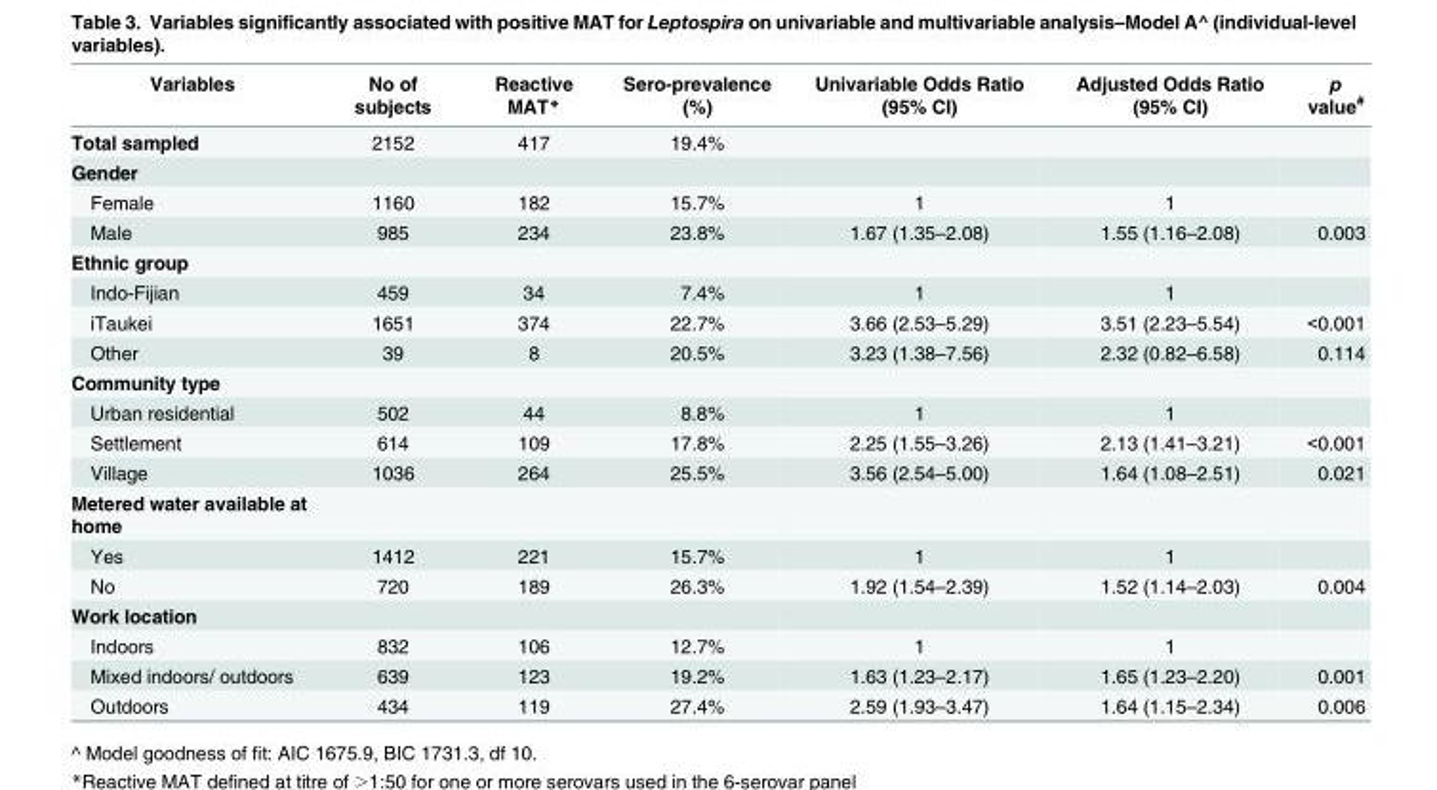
<table><thead><tr><td>Variables</td><td>No of subjects</td><td>Reactive MAT*</td><td>Sero-prevalence (%)</td><td>Univariable Odds Ratio (95% CI)</td><td>Adjusted Odds Ratio (95% CI)</td><td>p value<sup>#</sup></td></tr></thead><tbody><tr><td>Total sampled</td><td>2152</td><td>417</td><td>19.4%</td><td></td><td></td><td></td></tr><tr><td colspan="7">Gender</td></tr><tr><td>Female</td><td>1160</td><td>182</td><td>15.7%</td><td>1</td><td>1</td><td></td></tr><tr><td>Male</td><td>985</td><td>234</td><td>23.8%</td><td>1.67 (1.35–2.08)</td><td>1.55 (1.16–2.08)</td><td>0.003</td></tr><tr><td colspan="7">Ethnic group</td></tr><tr><td>Indo-Fijian</td><td>459</td><td>34</td><td>7.4%</td><td>1</td><td>1</td><td></td></tr><tr><td>iTaukei</td><td>1651</td><td>374</td><td>22.7%</td><td>3.66 (2.53–5.29)</td><td>3.51 (2.23–5.54)</td><td>&lt;0.001</td></tr><tr><td>Other</td><td>39</td><td>8</td><td>20.5%</td><td>3.23 (1.38–7.56)</td><td>2.32 (0.82–6.58)</td><td>0.114</td></tr><tr><td colspan="7">Community type</td></tr><tr><td>Urban residential</td><td>502</td><td>44</td><td>8.8%</td><td>1</td><td>1</td><td></td></tr><tr><td>Settlement</td><td>614</td><td>109</td><td>17.8%</td><td>2.25 (1.55–3.26)</td><td>2.13 (1.41–3.21)</td><td>&lt;0.001</td></tr><tr><td>Village</td><td>1036</td><td>264</td><td>25.5%</td><td>3.56 (2.54–5.00)</td><td>1.64 (1.08–2.51)</td><td>0.021</td></tr><tr><td colspan="7">Metered water available at home</td></tr><tr><td>Yes</td><td>1412</td><td>221</td><td>15.7%</td><td>1</td><td>1</td><td></td></tr><tr><td>No</td><td>720</td><td>189</td><td>26.3%</td><td>1.92 (1.54–2.39)</td><td>1.52 (1.14–2.03)</td><td>0.004</td></tr><tr><td colspan="7">Work location</td></tr><tr><td>Indoors</td><td>832</td><td>106</td><td>12.7%</td><td>1</td><td>1</td><td></td></tr><tr><td>Mixed indoors/ outdoors</td><td>639</td><td>123</td><td>19.2%</td><td>1.63 (1.23–2.17)</td><td>1.65 (1.23–2.20)</td><td>0.001</td></tr><tr><td>Outdoors</td><td>434</td><td>119</td><td>27.4%</td><td>2.59 (1.93–3.47)</td><td>1.64 (1.15–2.34)</td><td>0.006</td></tr></tbody></table>